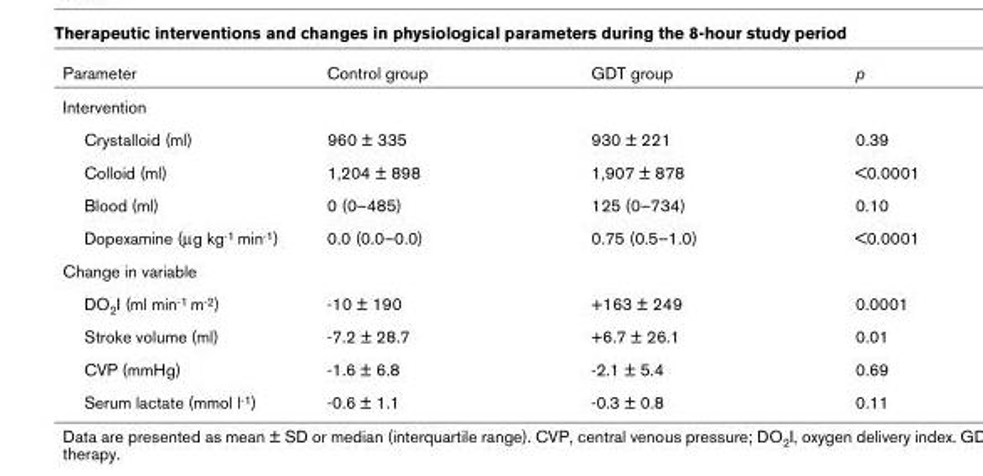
<table><thead><tr><td>Parameter</td><td>Control group</td><td>GDT group</td><td>p</td></tr></thead><tbody><tr><td colspan="4">Intervention</td></tr><tr><td>Crystalloid (ml)</td><td>960 ± 335</td><td>930 ± 221</td><td>0.39</td></tr><tr><td>Colloid (ml)</td><td>1,204 ± 898</td><td>1,907 ± 878</td><td>&lt;0.0001</td></tr><tr><td>Blood (ml)</td><td>0 (0–485)</td><td>125 (0–734)</td><td>0.10</td></tr><tr><td>Dopexamine (µg kg-1 min-1)</td><td>0.0 (0.0–0.0)</td><td>0.75 (0.5–1.0)</td><td>&lt;0.0001</td></tr><tr><td colspan="4">Change in variable</td></tr><tr><td>DO2I (ml min-1 m-2)</td><td>-10 ± 190</td><td>+163 ± 249</td><td>0.0001</td></tr><tr><td>Stroke volume (ml)</td><td>-7.2 ± 28.7</td><td>+6.7 ± 26.1</td><td>0.01</td></tr><tr><td>CVP (mmHg)</td><td>-1.6 ± 6.8</td><td>-2.1 ± 5.4</td><td>0.69</td></tr><tr><td>Serum lactate (mmol l-1)</td><td>-0.6 ± 1.1</td><td>-0.3 ± 0.8</td><td>0.11</td></tr></tbody></table>